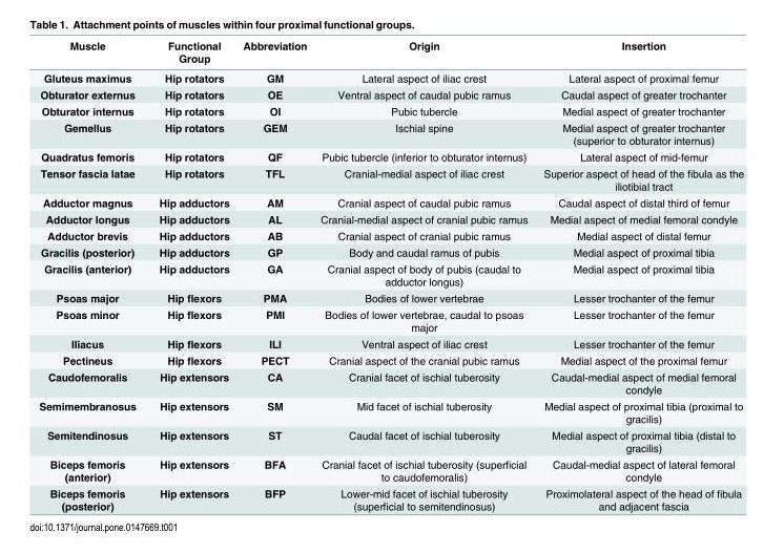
<table><thead><tr><td>Muscle</td><td>Functional Group</td><td>Abbreviation</td><td>Origin</td><td>Insertion</td></tr></thead><tbody><tr><td>Gluteus maximus</td><td>Hip rotators</td><td>GM</td><td>Lateral aspect of iliac crest</td><td>Lateral aspect of proximal femur</td></tr><tr><td>Obturator externus</td><td>Hip rotators</td><td>OE</td><td>Ventral aspect of caudal pubic ramus</td><td>Caudal aspect of greater trochanter</td></tr><tr><td>Obturator internus</td><td>Hip rotators</td><td>OI</td><td>Pubic tubercle</td><td>Medial aspect of greater trochanter</td></tr><tr><td>Gemellus</td><td>Hip rotators</td><td>GEM</td><td>Ischial spine</td><td>Medial aspect of greater trochanter (superior to obturator internus)</td></tr><tr><td>Quadratus femoris</td><td>Hip rotators</td><td>QF</td><td>Pubic tubercle (inferior to obturator internus)</td><td>Lateral aspect of mid-femur</td></tr><tr><td>Tensor fascia latae</td><td>Hip rotators</td><td>TFL</td><td>Cranial-medial aspect of iliac crest</td><td>Superior aspect of head of the fibula as the iliotibial tract</td></tr><tr><td>Adductor magnus</td><td>Hip adductors</td><td>AM</td><td>Cranial aspect of caudal pubic ramus</td><td>Caudal aspect of distal third of femur</td></tr><tr><td>Adductor longus</td><td>Hip adductors</td><td>AL</td><td>Cranial-medial aspect of cranial pubic ramus</td><td>Medial aspect of medial femoral condyle</td></tr><tr><td>Adductor brevis</td><td>Hip adductors</td><td>AB</td><td>Cranial aspect of cranial pubic ramus</td><td>Medial aspect of distal femur</td></tr><tr><td>Gracilis (posterior)</td><td>Hip adductors</td><td>GP</td><td>Body and caudal ramus of pubis</td><td>Medial aspect of proximal tibia</td></tr><tr><td>Gracilis (anterior)</td><td>Hip adductors</td><td>GA</td><td>Cranial aspect of body of pubis (caudal to adductor longus)</td><td>Medial aspect of proximal tibia</td></tr><tr><td>Psoas major</td><td>Hip flexors</td><td>PMA</td><td>Bodies of lower vertebrae</td><td>Lesser trochanter of the femur</td></tr><tr><td>Psoas minor</td><td>Hip flexors</td><td>PMI</td><td>Bodies of lower vertebrae, caudal to psoas major</td><td>Lesser trochanter of the femur</td></tr><tr><td>Iliacus</td><td>Hip flexors</td><td>ILI</td><td>Ventral aspect of iliac crest</td><td>Lesser trochanter of the femur</td></tr><tr><td>Pectineus</td><td>Hip flexors</td><td>PECT</td><td>Cranial aspect of the cranial pubic ramus</td><td>Medial aspect of the proximal femur</td></tr><tr><td>Caudofemoralis</td><td>Hip extensors</td><td>CA</td><td>Cranial facet of ischial tuberosity</td><td>Caudal-medial aspect of medial femoral condyle</td></tr><tr><td>Semimembranosus</td><td>Hip extensors</td><td>SM</td><td>Mid facet of ischial tuberosity</td><td>Medial aspect of proximal tibia (proximal to gracilis)</td></tr><tr><td>Semitendinosus</td><td>Hip extensors</td><td>ST</td><td>Caudal facet of ischial tuberosity</td><td>Medial aspect of proximal tibia (distal to gracilis)</td></tr><tr><td>Biceps femoris (anterior)</td><td>Hip extensors</td><td>BFA</td><td>Cranial facet of ischial tuberosity (superficial to caudofemoralis)</td><td>Caudal-medial aspect of lateral femoral condyle</td></tr><tr><td>Biceps femoris (posterior)</td><td>Hip extensors</td><td>BFP</td><td>Lower-mid facet of ischial tuberosity (superficial to semitendinosus)</td><td>Proximolateral aspect of the head of fibula and adjacent fascia</td></tr></tbody></table>